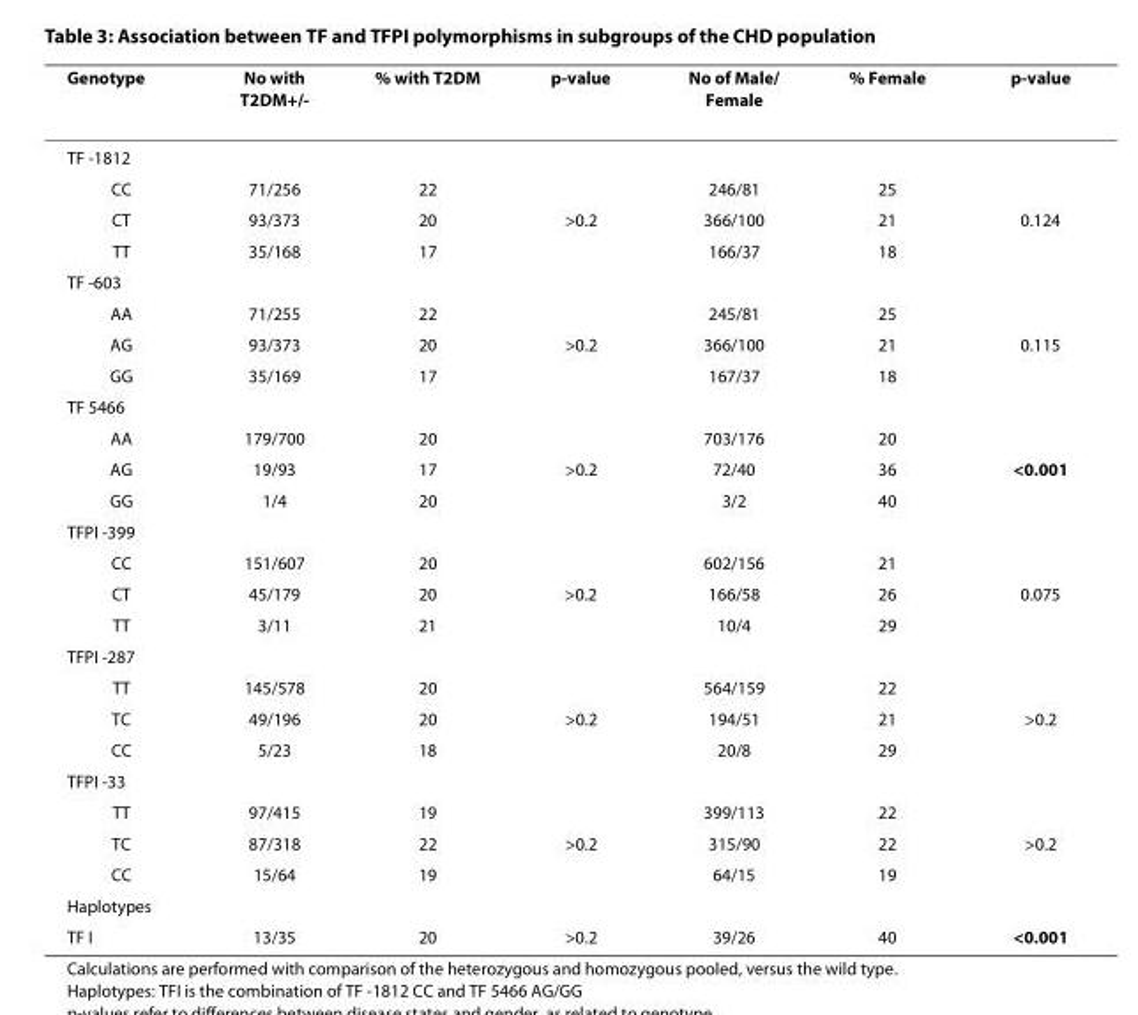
<table><thead><tr><td>Genotype</td><td>No with T2DM+/-</td><td>% with T2DM</td><td>p-value</td><td>No of Male/ Female</td><td>% Female</td><td>p-value</td></tr></thead><tbody><tr><td colspan="7">TF -1812</td></tr><tr><td>CC</td><td>71/256</td><td>22</td><td></td><td>246/81</td><td>25</td><td></td></tr><tr><td>CT</td><td>93/373</td><td>20</td><td>&gt;0.2</td><td>366/100</td><td>21</td><td>0.124</td></tr><tr><td>TT</td><td>35/168</td><td>17</td><td></td><td>166/37</td><td>18</td><td></td></tr><tr><td colspan="7">TF -603</td></tr><tr><td>AA</td><td>71/255</td><td>22</td><td></td><td>245/81</td><td>25</td><td></td></tr><tr><td>AG</td><td>93/373</td><td>20</td><td>&gt;0.2</td><td>366/100</td><td>21</td><td>0.115</td></tr><tr><td>GG</td><td>35/169</td><td>17</td><td></td><td>167/37</td><td>18</td><td></td></tr><tr><td colspan="7">TF 5466</td></tr><tr><td>AA</td><td>179/700</td><td>20</td><td></td><td>703/176</td><td>20</td><td></td></tr><tr><td>AG</td><td>19/93</td><td>17</td><td>&gt;0.2</td><td>72/40</td><td>36</td><td>&lt;0.001</td></tr><tr><td>GG</td><td>1/4</td><td>20</td><td></td><td>3/2</td><td>40</td><td></td></tr><tr><td colspan="7">TFPI -399</td></tr><tr><td>CC</td><td>151/607</td><td>20</td><td></td><td>602/156</td><td>21</td><td></td></tr><tr><td>CT</td><td>45/179</td><td>20</td><td>&gt;0.2</td><td>166/58</td><td>26</td><td>0.075</td></tr><tr><td>TT</td><td>3/11</td><td>21</td><td></td><td>10/4</td><td>29</td><td></td></tr><tr><td colspan="7">TFPI -287</td></tr><tr><td>TT</td><td>145/578</td><td>20</td><td></td><td>564/159</td><td>22</td><td></td></tr><tr><td>TC</td><td>49/196</td><td>20</td><td>&gt;0.2</td><td>194/51</td><td>21</td><td>&gt;0.2</td></tr><tr><td>CC</td><td>5/23</td><td>18</td><td></td><td>20/8</td><td>29</td><td></td></tr><tr><td colspan="7">TFPI -33</td></tr><tr><td>TT</td><td>97/415</td><td>19</td><td></td><td>399/113</td><td>22</td><td></td></tr><tr><td>TC</td><td>87/318</td><td>22</td><td>&gt;0.2</td><td>315/90</td><td>22</td><td>&gt;0.2</td></tr><tr><td>CC</td><td>15/64</td><td>19</td><td></td><td>64/15</td><td>19</td><td></td></tr><tr><td colspan="7">Haplotypes</td></tr><tr><td>TF I</td><td>13/35</td><td>20</td><td>&gt;0.2</td><td>39/26</td><td>40</td><td>&lt;0.001</td></tr></tbody></table>